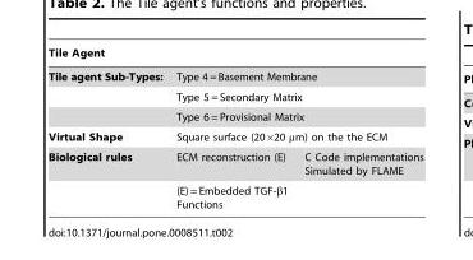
<table><thead><tr><td colspan="3">Tile Agent</td></tr></thead><tbody><tr><td rowspan="3">Tile agent Sub-Types:</td><td colspan="2">Type 4 =Basement Membrane</td></tr><tr><td colspan="2">Type 5 = Secondary Matrix</td></tr><tr><td colspan="2">Type 6 = Provisional Matrix</td></tr><tr><td>Virtual Shape</td><td colspan="2">Square surface (20×20 µm) on the the ECM</td></tr><tr><td rowspan="2">Biological rules</td><td>ECM reconstruction (E)</td><td>C Code implementations Simulated by FLAME</td></tr><tr><td>(E) = Embedded TGF-β1 Functions</td><td></td></tr></tbody></table>